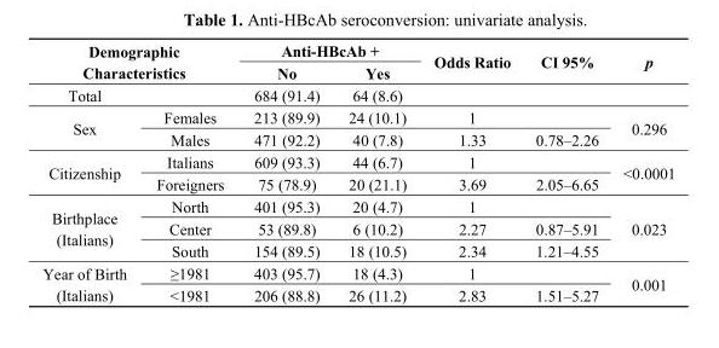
<table><thead><tr><td rowspan="2" colspan="2">Demographic Characteristics</td><td colspan="2">Anti-HBcAb +</td><td rowspan="3">Odds Ratio</td><td rowspan="3">CI 95%</td><td rowspan="3">p</td></tr><tr><td rowspan="2">No 684 (91.4)</td><td rowspan="2">Yes 64 (8.6)</td></tr><tr><td>Total</td><td></td></tr></thead><tbody><tr><td rowspan="2">Sex</td><td>Females</td><td>213 (89.9)</td><td>24 (10.1)</td><td>1</td><td></td><td rowspan="2">0.296</td></tr><tr><td>Males</td><td>471 (92.2)</td><td>40 (7.8)</td><td>1.33</td><td>0.78–2.26</td></tr><tr><td rowspan="2">Citizenship</td><td>Italians</td><td>609 (93.3)</td><td>44 (6.7)</td><td>1</td><td></td><td rowspan="2">&lt;0.0001</td></tr><tr><td>Foreigners</td><td>75 (78.9)</td><td>20 (21.1)</td><td>3.69</td><td>2.05–6.65</td></tr><tr><td rowspan="3">Birthplace (Italians)</td><td>North</td><td>401 (95.3)</td><td>20 (4.7)</td><td>1</td><td></td><td rowspan="3">0.023</td></tr><tr><td>Center</td><td>53 (89.8)</td><td>6 (10.2)</td><td>2.27</td><td>0.87–5.91</td></tr><tr><td>South</td><td>154 (89.5)</td><td>18 (10.5)</td><td>2.34</td><td>1.21–4.55</td></tr><tr><td rowspan="2">Year of Birth (Italians)</td><td>≥1981</td><td>403 (95.7)</td><td>18 (4.3)</td><td>1</td><td></td><td rowspan="2">0.001</td></tr><tr><td>&lt;1981</td><td>206 (88.8)</td><td>26 (11.2)</td><td>2.83</td><td>1.51–5.27</td></tr></tbody></table>